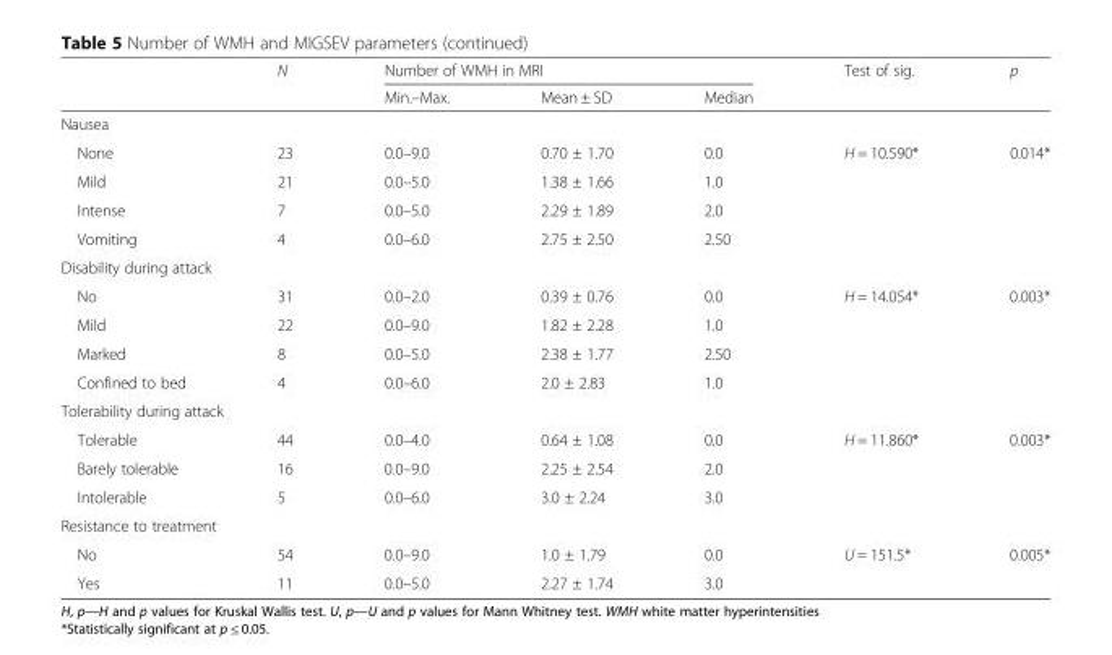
<table><thead><tr><td rowspan="2"></td><td rowspan="2">N</td><td colspan="3">Number of WMH in MRI</td><td rowspan="2">Test of sig.</td><td rowspan="2">p</td></tr><tr><td>Min.–Max.</td><td>Mean ± SD</td><td>Median</td></tr></thead><tbody><tr><td colspan="7">Nausea</td></tr><tr><td>None</td><td>23</td><td>0.0–9.0</td><td>0.70 ± 1.70</td><td>0.0</td><td rowspan="4">H = 10.590*</td><td rowspan="4">0.014*</td></tr><tr><td>Mild</td><td>21</td><td>0.0–5.0</td><td>1.38 ± 1.66</td><td>1.0</td></tr><tr><td>Intense</td><td>7</td><td>0.0–5.0</td><td>2.29 ± 1.89</td><td>2.0</td></tr><tr><td>Vomiting</td><td>4</td><td>0.0–6.0</td><td>2.75 ± 2.50</td><td>2.50</td></tr><tr><td colspan="7">Disability during attack</td></tr><tr><td>No</td><td>31</td><td>0.0–2.0</td><td>0.39 ± 0.76</td><td>0.0</td><td rowspan="4">H = 14.054*</td><td rowspan="4">0.003*</td></tr><tr><td>Mild</td><td>22</td><td>0.0–9.0</td><td>1.82 ± 2.28</td><td>1.0</td></tr><tr><td>Marked</td><td>8</td><td>0.0–5.0</td><td>2.38 ± 1.77</td><td>2.50</td></tr><tr><td>Confined to bed</td><td>4</td><td>0.0–6.0</td><td>2.0 ± 2.83</td><td>1.0</td></tr><tr><td colspan="7">Tolerability during attack</td></tr><tr><td>Tolerable</td><td>44</td><td>0.0–4.0</td><td>0.64 ± 1.08</td><td>0.0</td><td rowspan="3">H = 11.860*</td><td rowspan="3">0.003*</td></tr><tr><td>Barely tolerable</td><td>16</td><td>0.0–9.0</td><td>2.25 ± 2.54</td><td>2.0</td></tr><tr><td>Intolerable</td><td>5</td><td>0.0–6.0</td><td>3.0 ± 2.24</td><td>3.0</td></tr><tr><td colspan="7">Resistance to treatment</td></tr><tr><td>No</td><td>54</td><td>0.0–9.0</td><td>1.0 ± 1.79</td><td>0.0</td><td rowspan="2">U = 151.5*</td><td rowspan="2">0.005*</td></tr><tr><td>Yes</td><td>11</td><td>0.0–5.0</td><td>2.27 ± 1.74</td><td>3.0</td></tr></tbody></table>